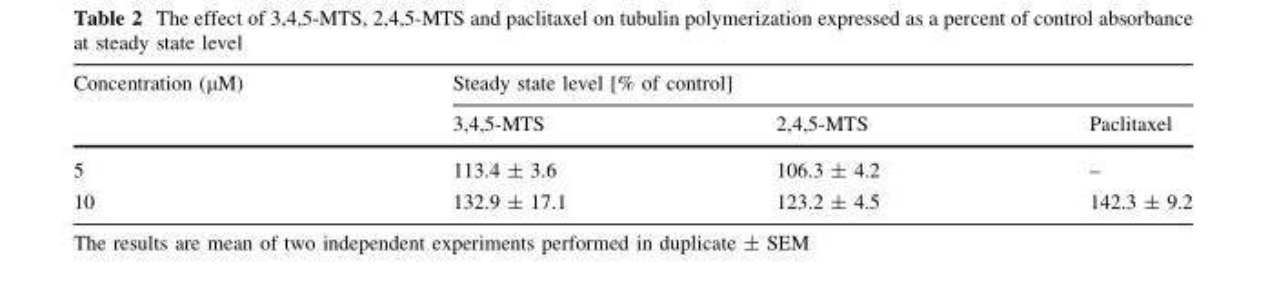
<table><thead><tr><td rowspan="2">Concentration (µM)</td><td colspan="3">Steady state level [% of control]</td></tr><tr><td>3,4,5-MTS</td><td>2,4,5-MTS</td><td>Paclitaxel</td></tr></thead><tbody><tr><td>5</td><td>113.4 ± 3.6</td><td>106.3 ± 4.2</td><td>–</td></tr><tr><td>10</td><td>132.9 ± 17.1</td><td>123.2 ± 4.5</td><td>142.3 ± 9.2</td></tr></tbody></table>